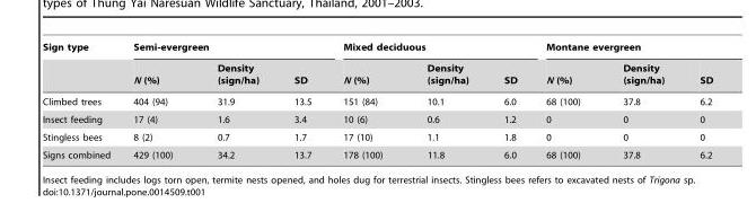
<table><thead><tr><td rowspan="2">Sign type</td><td colspan="3">Semi-evergreen</td><td colspan="3">Mixed deciduous</td><td colspan="3">Montane evergreen</td></tr><tr><td>N (%)</td><td>Density (sign/ha)</td><td>SD</td><td>N (%)</td><td>Density (sign/ha)</td><td>SD</td><td>N (%)</td><td>Density (sign/ha)</td><td>SD</td></tr></thead><tbody><tr><td>Climbed trees</td><td>404 (94)</td><td>31.9</td><td>13.5</td><td>151 (84)</td><td>10.1</td><td>6.0</td><td>68 (100)</td><td>37.8</td><td>6.2</td></tr><tr><td>Insect feeding</td><td>17 (4)</td><td>1.6</td><td>3.4</td><td>10 (6)</td><td>0.6</td><td>1.2</td><td>0</td><td>0</td><td>0</td></tr><tr><td>Stingless bees</td><td>8 (2)</td><td>0.7</td><td>1.7</td><td>17 (10)</td><td>1.1</td><td>1.8</td><td>0</td><td>0</td><td>0</td></tr><tr><td>Signs combined</td><td>429 (100)</td><td>34.2</td><td>13.7</td><td>178 (100)</td><td>11.8</td><td>6.0</td><td>68 (100)</td><td>37.8</td><td>6.2</td></tr></tbody></table>